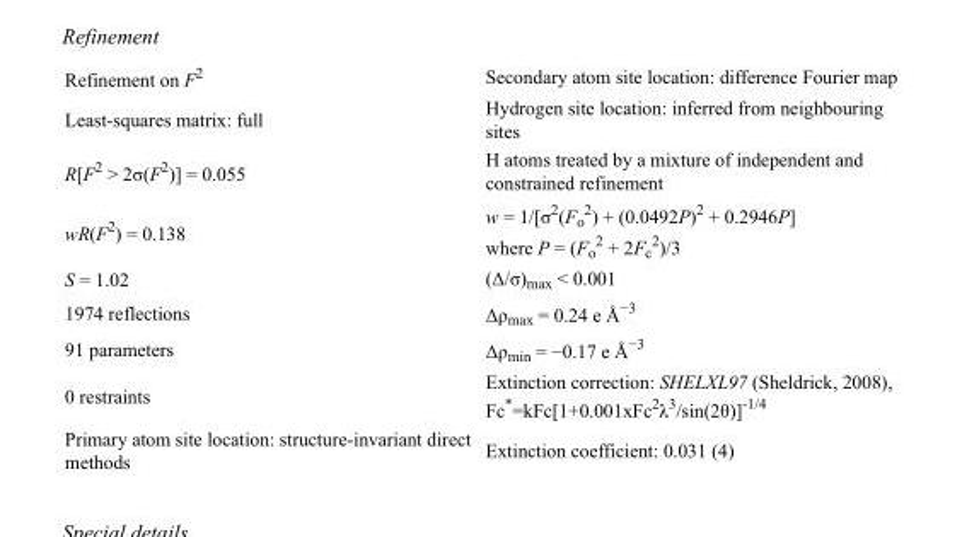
<table><tbody><tr><td>Refinement on F<sup>2</sup></td><td>Secondary atom site location: difference Fourier map</td></tr><tr><td>Least-squares matrix: full</td><td>Hydrogen site location: inferred from neighbouring sites</td></tr><tr><td>R[F<sup>2</sup> &gt; 2σ(F<sup>2</sup>)] = 0.055</td><td>H atoms treated by a mixture of independent and constrained refinement</td></tr><tr><td>wR(F<sup>2</sup>) = 0.138</td><td>w = 1/[σ<sup>2</sup>(F<sub>o</sub> <sup>2</sup>) + (0.0492P)<sup>2</sup> + 0.2946P] where P = (F<sub>o</sub> <sup>2</sup> + 2F<sub>c</sub> <sup>2</sup>)/3</td></tr><tr><td>S = 1.02</td><td>(Δ/σ)<sub>max</sub> &lt; 0.001</td></tr><tr><td>1974 reflections</td><td>Δρ<sub>max</sub> = 0.24 e Å<sup>−3</sup></td></tr><tr><td>91 parameters</td><td>Δρ<sub>min</sub> = −0.17 e Å<sup>−3</sup></td></tr><tr><td>0 restraints</td><td>Extinction correction: SHELXL97 (Sheldrick, 2008), Fc*=kFc[1+0.001xFc<sup>2</sup>λ<sup>3</sup>/sin(2θ)]<sup>-1/4</sup></td></tr><tr><td>Primary atom site location: structure-invariant direct methods</td><td>Extinction coefficient: 0.031 (4)</td></tr></tbody></table>